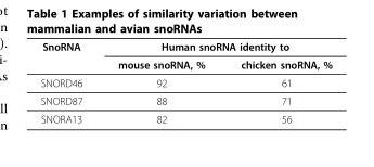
<table><thead><tr><td rowspan="2">SnoRNA</td><td colspan="2">Human snoRNA identity to</td></tr><tr><td>mouse snoRNA, %</td><td>chicken snoRNA, %</td></tr></thead><tbody><tr><td>SNORD46</td><td>92</td><td>61</td></tr><tr><td>SNORD87</td><td>88</td><td>71</td></tr><tr><td>SNORA13</td><td>82</td><td>56</td></tr></tbody></table>